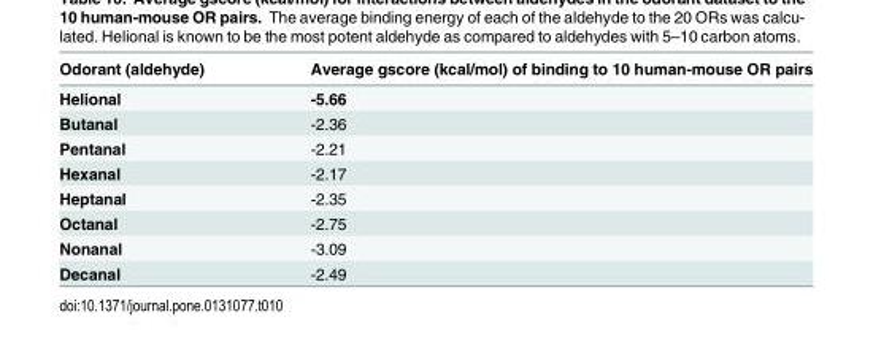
<table><thead><tr><td>Odorant (aldehyde)</td><td>Average gscore (kcal/mol) of binding to 10 human-mouse OR pairs</td></tr></thead><tbody><tr><td>Helional</td><td>-5.66</td></tr><tr><td>Butanal</td><td>-2.36</td></tr><tr><td>Pentanal</td><td>-2.21</td></tr><tr><td>Hexanal</td><td>-2.17</td></tr><tr><td>Heptanal</td><td>-2.35</td></tr><tr><td>Octanal</td><td>-2.75</td></tr><tr><td>Nonanal</td><td>-3.09</td></tr><tr><td>Decanal</td><td>-2.49</td></tr></tbody></table>